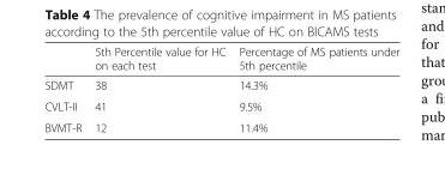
<table><thead><tr><td></td><td>5th Percentile value for HC on each test</td><td>Percentage of MS patients under 5th percentile</td></tr></thead><tbody><tr><td>SDMT</td><td>38</td><td>14.3%</td></tr><tr><td>CVLT-II</td><td>41</td><td>9.5%</td></tr><tr><td>BVMT-R</td><td>12</td><td>11.4%</td></tr></tbody></table>